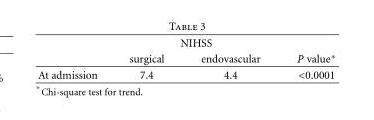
<table><thead><tr><td rowspan="2"></td><td colspan="2">NIHSS</td><td rowspan="2">P value∗</td></tr><tr><td>surgical</td><td>endovascular</td></tr></thead><tbody><tr><td>At admission</td><td>7.4</td><td>4.4</td><td>&lt;0.0001</td></tr></tbody></table>